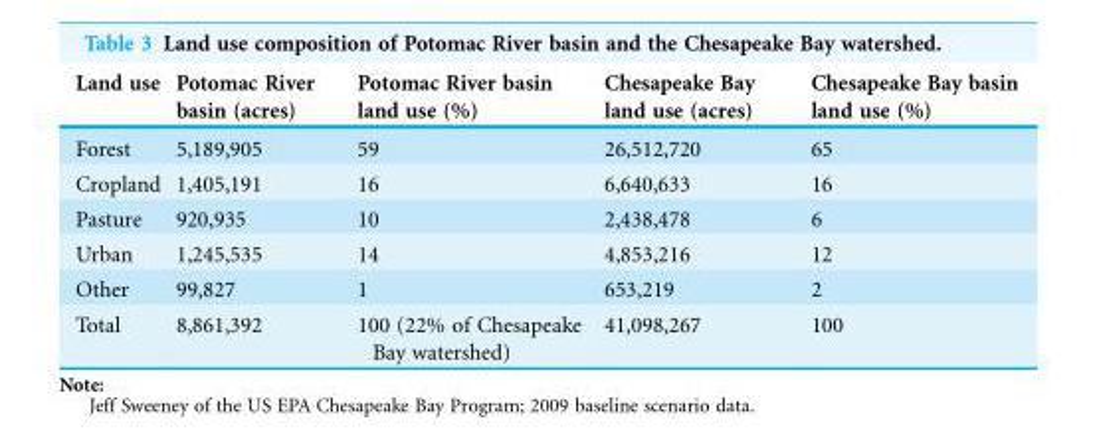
<table><thead><tr><td>Land use</td><td>Potomac River basin (acres)</td><td>Potomac River basin land use (%)</td><td>Chesapeake Bay land use (acres)</td><td>Chesapeake Bay basin land use (%)</td></tr></thead><tbody><tr><td>Forest</td><td>5,189,905</td><td>59</td><td>26,512,720</td><td>65</td></tr><tr><td>Cropland</td><td>1,405,191</td><td>16</td><td>6,640,633</td><td>16</td></tr><tr><td>Pasture</td><td>920,935</td><td>10</td><td>2,438,478</td><td>6</td></tr><tr><td>Urban</td><td>1,245,535</td><td>14</td><td>4,853,216</td><td>12</td></tr><tr><td>Other</td><td>99,827</td><td>1</td><td>653,219</td><td>2</td></tr><tr><td>Total</td><td>8,861,392</td><td>100 (22% of Chesapeake Bay watershed)</td><td>41,098,267</td><td>100</td></tr></tbody></table>